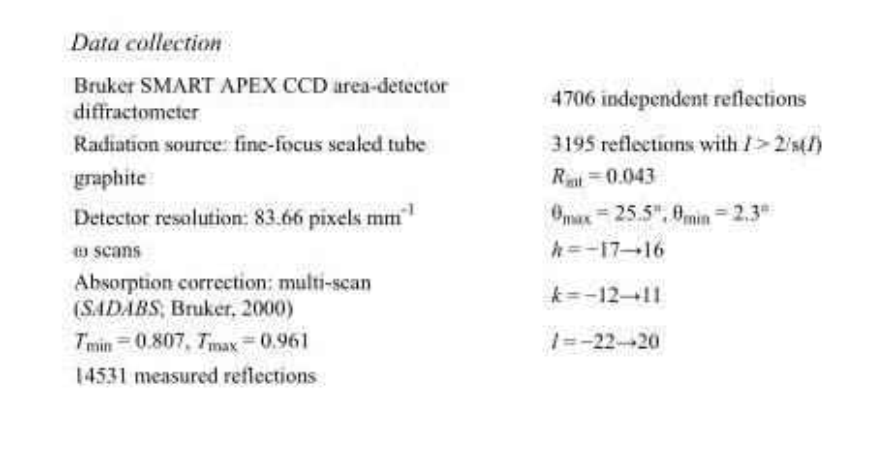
<table><tbody><tr><td>Bruker SMART APEX CCD area-detector diffractometer</td><td>4706 independent reflections</td></tr><tr><td>Radiation source: fine-focus sealed tube</td><td>3195 reflections with I &gt; 2/s(I)</td></tr><tr><td>graphite</td><td>R<sub>int</sub> = 0.043</td></tr><tr><td>Detector resolution: 83.66 pixels mm<sup>-1</sup></td><td>θ<sub>max</sub> = 25.5°, θ<sub>min</sub> = 2.3°</td></tr><tr><td>ω scans</td><td>h = −17→16</td></tr><tr><td>Absorption correction: multi-scan (SADABS; Bruker, 2000)</td><td>k = −12→11</td></tr><tr><td>T<sub>min</sub> = 0.807, T<sub>max</sub> = 0.961</td><td>l = −22→20</td></tr><tr><td>14531 measured reflections</td><td></td></tr></tbody></table>